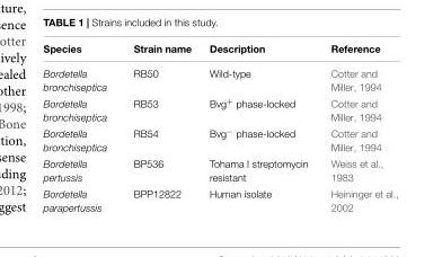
<table><thead><tr><td>Species</td><td>Strain name</td><td>Description</td><td>Reference</td></tr></thead><tbody><tr><td>Bordetella bronchiseptica</td><td>RB50</td><td>Wild-type</td><td>Cotter and Miller, 1994</td></tr><tr><td>Bordetella bronchiseptica</td><td>RB53</td><td>Bvg<sup>+</sup> phase-locked</td><td>Cotter and Miller, 1994</td></tr><tr><td>Bordetella bronchiseptica</td><td>RB54</td><td>Bvg<sup>−</sup> phase-locked</td><td>Cotter and Miller, 1994</td></tr><tr><td>Bordetella pertussis</td><td>BP536</td><td>Tohama I streptomycin resistant</td><td>Weiss et al., 1983</td></tr><tr><td>Bordetella parapertussis</td><td>BPP12822</td><td>Human isolate</td><td>Heininger et al., 2002</td></tr></tbody></table>